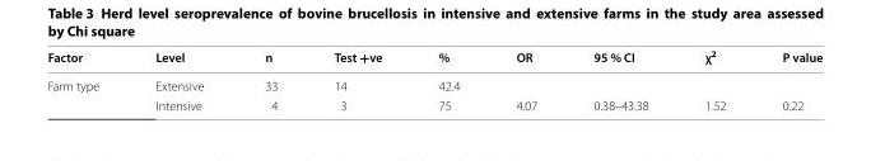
<table><thead><tr><td>Factor</td><td>Level</td><td>n</td><td>Test +ve</td><td>%</td><td>OR</td><td>95 % CI</td><td>χ<sup>2</sup></td><td>P value</td></tr></thead><tbody><tr><td rowspan="2">Farm type</td><td>Extensive</td><td>33</td><td>14</td><td>42.4</td><td></td><td></td><td></td><td></td></tr><tr><td>Intensive</td><td>4</td><td>3</td><td>75</td><td>4.07</td><td>0.38–43.38</td><td>1.52</td><td>0.22</td></tr></tbody></table>